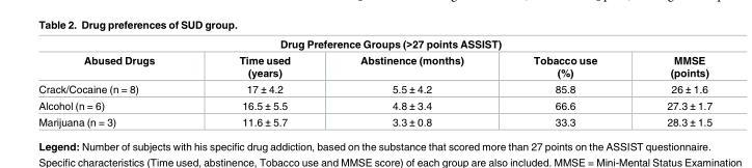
<table><thead><tr><td colspan="5">Drug Preference Groups (&gt;27 points ASSIST)</td></tr><tr><td>Abused Drugs</td><td>Time used (years)</td><td>Abstinence (months)</td><td>Tobacco use (%)</td><td>MMSE (points)</td></tr></thead><tbody><tr><td>Crack/Cocaine (n = 8)</td><td>17 ± 4.2</td><td>5.5 ± 4.2</td><td>85.8</td><td>26 ± 1.6</td></tr><tr><td>Alcohol (n = 6)</td><td>16.5 ± 5.5</td><td>4.8 ± 3.4</td><td>66.6</td><td>27.3 ± 1.7</td></tr><tr><td>Marijuana (n = 3)</td><td>11.6 ± 5.7</td><td>3.3 ± 0.8</td><td>33.3</td><td>28.3 ± 1.5</td></tr></tbody></table>